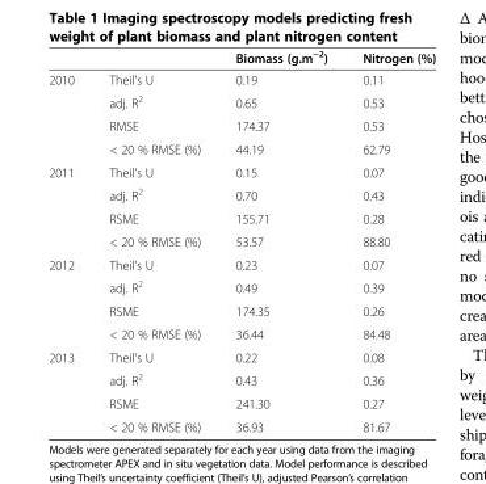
<table><thead><tr><td></td><td></td><td>Biomass (g.m<sup>−2</sup>)</td><td>Nitrogen (%)</td></tr></thead><tbody><tr><td rowspan="4">2010</td><td>Theil’s U</td><td>0.19</td><td>0.11</td></tr><tr><td>adj. R<sup>2</sup></td><td>0.65</td><td>0.53</td></tr><tr><td>RMSE</td><td>174.37</td><td>0.53</td></tr><tr><td>&lt; 20 % RMSE (%)</td><td>44.19</td><td>62.79</td></tr><tr><td rowspan="4">2011</td><td>Theil’s U</td><td>0.15</td><td>0.07</td></tr><tr><td>adj. R<sup>2</sup></td><td>0.70</td><td>0.43</td></tr><tr><td>RSME</td><td>155.71</td><td>0.28</td></tr><tr><td>&lt; 20 % RMSE (%)</td><td>53.57</td><td>88.80</td></tr><tr><td rowspan="4">2012</td><td>Theil’s U</td><td>0.23</td><td>0.07</td></tr><tr><td>adj. R<sup>2</sup></td><td>0.49</td><td>0.39</td></tr><tr><td>RSME</td><td>174.35</td><td>0.26</td></tr><tr><td>&lt; 20 % RMSE (%)</td><td>36.44</td><td>84.48</td></tr><tr><td rowspan="4">2013</td><td>Theil’s U</td><td>0.22</td><td>0.08</td></tr><tr><td>adj. R<sup>2</sup></td><td>0.43</td><td>0.36</td></tr><tr><td>RSME</td><td>241.30</td><td>0.27</td></tr><tr><td>&lt; 20 % RMSE (%)</td><td>36.93</td><td>81.67</td></tr></tbody></table>